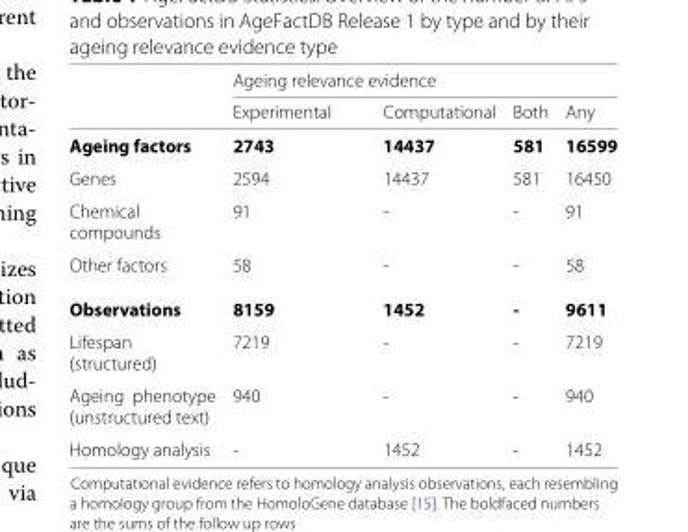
<table><thead><tr><td rowspan="2"></td><td colspan="4">Ageing relevance evidence</td></tr><tr><td>Experimental</td><td>Computational</td><td>Both</td><td>Any</td></tr></thead><tbody><tr><td>Ageing factors</td><td>2743</td><td>14437</td><td>581</td><td>16599</td></tr><tr><td>Genes</td><td>2594</td><td>14437</td><td>581</td><td>16450</td></tr><tr><td>Chemical compounds</td><td>91</td><td>-</td><td>-</td><td>91</td></tr><tr><td>Other factors</td><td>58</td><td>-</td><td>-</td><td>58</td></tr><tr><td>Observations</td><td>8159</td><td>1452</td><td>-</td><td>9611</td></tr><tr><td>Lifespan (structured)</td><td>7219</td><td>-</td><td>-</td><td>7219</td></tr><tr><td>Ageing phenotype (unstructured text)</td><td>940</td><td>-</td><td>-</td><td>940</td></tr><tr><td>Homology analysis</td><td>-</td><td>1452</td><td>-</td><td>1452</td></tr></tbody></table>